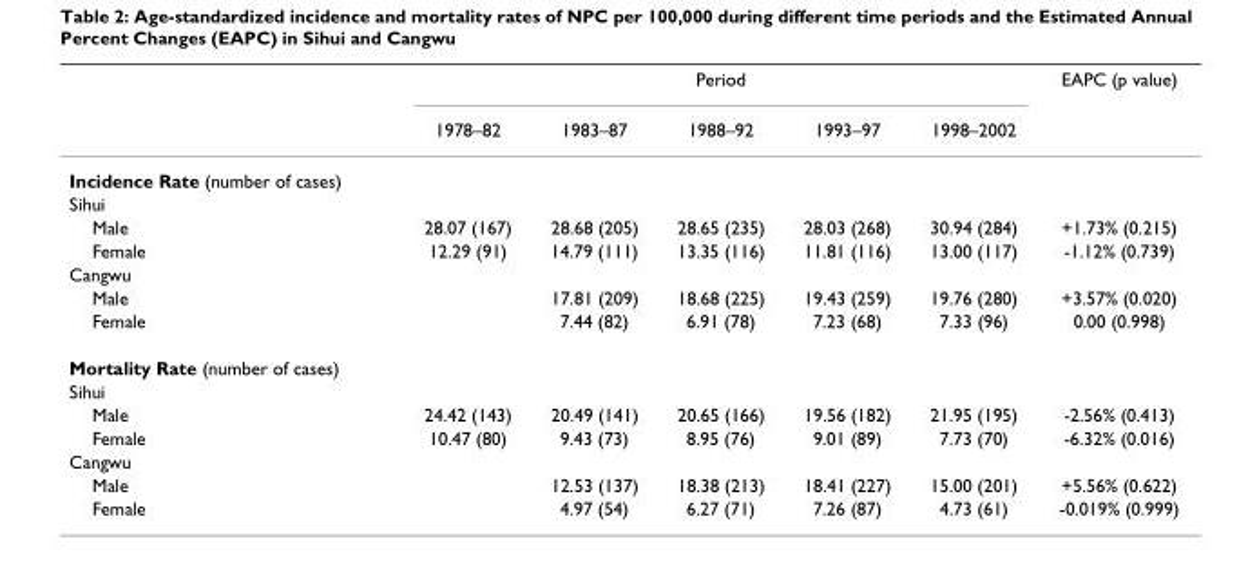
<table><thead><tr><td rowspan="2"></td><td colspan="5">Period</td><td rowspan="2">EAPC (p value)</td></tr><tr><td>1978–82</td><td>1983–87</td><td>1988–92</td><td>1993–97</td><td>1998–2002</td></tr></thead><tbody><tr><td colspan="7">Incidence Rate (number of cases)</td></tr><tr><td colspan="7">Sihui</td></tr><tr><td>Male</td><td>28.07 (167)</td><td>28.68 (205)</td><td>28.65 (235)</td><td>28.03 (268)</td><td>30.94 (284)</td><td>+1.73% (0.215)</td></tr><tr><td>Female</td><td>12.29 (91)</td><td>14.79 (111)</td><td>13.35 (116)</td><td>11.81 (116)</td><td>13.00 (117)</td><td>-1.12% (0.739)</td></tr><tr><td colspan="7">Cangwu</td></tr><tr><td>Male</td><td></td><td>17.81 (209)</td><td>18.68 (225)</td><td>19.43 (259)</td><td>19.76 (280)</td><td>+3.57% (0.020)</td></tr><tr><td>Female</td><td></td><td>7.44 (82)</td><td>6.91 (78)</td><td>7.23 (68)</td><td>7.33 (96)</td><td>0.00 (0.998)</td></tr><tr><td colspan="7">Mortality Rate (number of cases)</td></tr><tr><td colspan="7">Sihui</td></tr><tr><td>Male</td><td>24.42 (143)</td><td>20.49 (141)</td><td>20.65 (166)</td><td>19.56 (182)</td><td>21.95 (195)</td><td>-2.56% (0.413)</td></tr><tr><td>Female</td><td>10.47 (80)</td><td>9.43 (73)</td><td>8.95 (76)</td><td>9.01 (89)</td><td>7.73 (70)</td><td>-6.32% (0.016)</td></tr><tr><td colspan="7">Cangwu</td></tr><tr><td>Male</td><td></td><td>12.53 (137)</td><td>18.38 (213)</td><td>18.41 (227)</td><td>15.00 (201)</td><td>+5.56% (0.622)</td></tr><tr><td>Female</td><td></td><td>4.97 (54)</td><td>6.27 (71)</td><td>7.26 (87)</td><td>4.73 (61)</td><td>-0.019% (0.999)</td></tr></tbody></table>